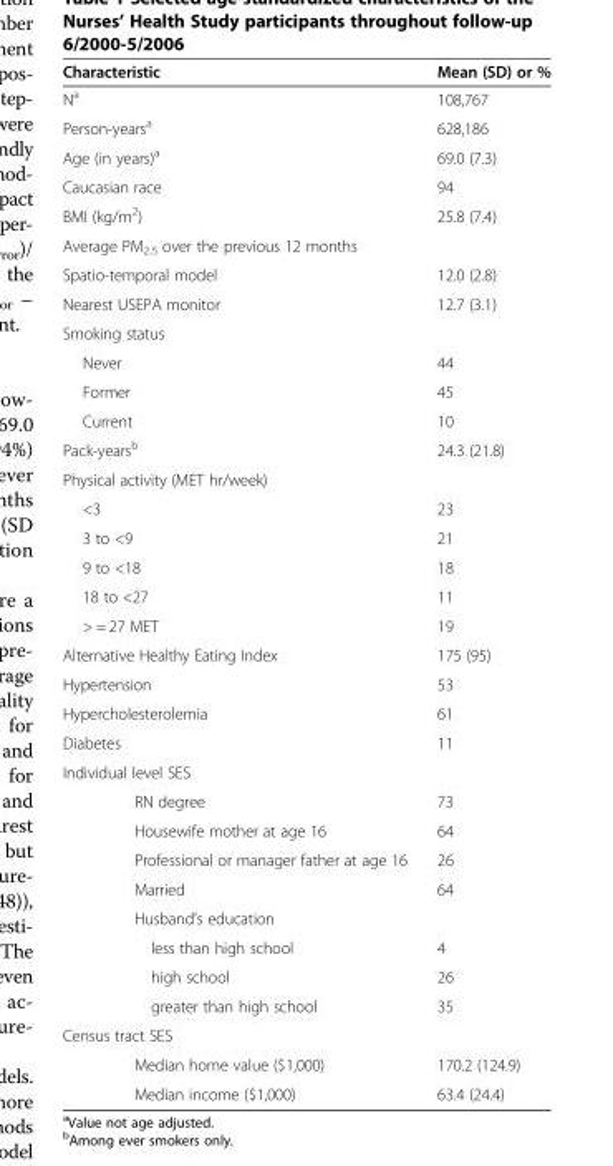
<table><thead><tr><td>Characteristic</td><td>Mean (SD) or %</td></tr></thead><tbody><tr><td>N<sup>a</sup></td><td>108,767</td></tr><tr><td>Person-years<sup>a</sup></td><td>628,186</td></tr><tr><td>Age (in years)<sup>a</sup></td><td>69.0 (7.3)</td></tr><tr><td>Caucasian race</td><td>94</td></tr><tr><td>BMI (kg/m<sup>2</sup>)</td><td>25.8 (7.4)</td></tr><tr><td colspan="2">Average PM<sub>2.5</sub> over the previous 12 months</td></tr><tr><td>Spatio-temporal model</td><td>12.0 (2.8)</td></tr><tr><td>Nearest USEPA monitor</td><td>12.7 (3.1)</td></tr><tr><td colspan="2">Smoking status</td></tr><tr><td>Never</td><td>44</td></tr><tr><td>Former</td><td>45</td></tr><tr><td>Current</td><td>10</td></tr><tr><td>Pack-years<sup>b</sup></td><td>24.3 (21.8)</td></tr><tr><td colspan="2">Physical activity (MET hr/week)</td></tr><tr><td>&lt;3</td><td>23</td></tr><tr><td>3 to &lt;9</td><td>21</td></tr><tr><td>9 to &lt;18</td><td>18</td></tr><tr><td>18 to &lt;27</td><td>11</td></tr><tr><td>&gt; = 27 MET</td><td>19</td></tr><tr><td>Alternative Healthy Eating Index</td><td>175 (95)</td></tr><tr><td>Hypertension</td><td>53</td></tr><tr><td>Hypercholesterolemia</td><td>61</td></tr><tr><td>Diabetes</td><td>11</td></tr><tr><td colspan="2">Individual level SES</td></tr><tr><td>RN degree</td><td>73</td></tr><tr><td>Housewife mother at age 16</td><td>64</td></tr><tr><td>Professional or manager father at age 16</td><td>26</td></tr><tr><td>Married</td><td>64</td></tr><tr><td colspan="2">Husband’s education</td></tr><tr><td>less than high school</td><td>4</td></tr><tr><td>high school</td><td>26</td></tr><tr><td>greater than high school</td><td>35</td></tr><tr><td colspan="2">Census tract SES</td></tr><tr><td>Median home value ($1,000)</td><td>170.2 (124.9)</td></tr><tr><td>Median income ($1,000)</td><td>63.4 (24.4)</td></tr></tbody></table>